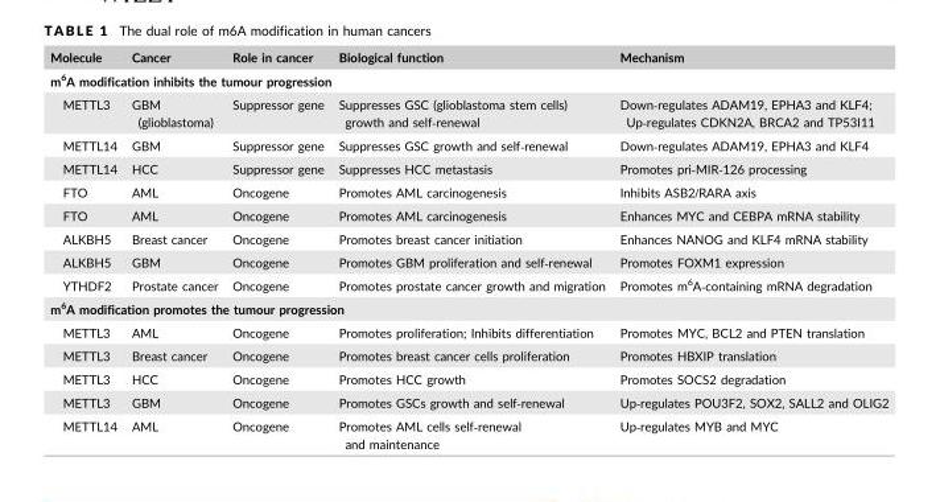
<table><thead><tr><td>Molecule</td><td>Cancer</td><td>Role in cancer</td><td>Biological function</td><td>Mechanism</td></tr></thead><tbody><tr><td colspan="5">m<sup>6</sup>A modification inhibits the tumour progression</td></tr><tr><td>METTL3</td><td>GBM (glioblastoma)</td><td>Suppressor gene</td><td>Suppresses GSC (glioblastoma stem cells) growth and self‐renewal</td><td>Down‐regulates ADAM19, EPHA3 and KLF4; Up‐regulates CDKN2A, BRCA2 and TP53I11</td></tr><tr><td>METTL14</td><td>GBM</td><td>Suppressor gene</td><td>Suppresses GSC growth and self‐renewal</td><td>Down‐regulates ADAM19, EPHA3 and KLF4</td></tr><tr><td>METTL14</td><td>HCC</td><td>Suppressor gene</td><td>Suppresses HCC metastasis</td><td>Promotes pri‐MIR‐126 processing</td></tr><tr><td>FTO</td><td>AML</td><td>Oncogene</td><td>Promotes AML carcinogenesis</td><td>Inhibits ASB2/RARA axis</td></tr><tr><td>FTO</td><td>AML</td><td>Oncogene</td><td>Promotes AML carcinogenesis</td><td>Enhances MYC and CEBPA mRNA stability</td></tr><tr><td>ALKBH5</td><td>Breast cancer</td><td>Oncogene</td><td>Promotes breast cancer initiation</td><td>Enhances NANOG and KLF4 mRNA stability</td></tr><tr><td>ALKBH5</td><td>GBM</td><td>Oncogene</td><td>Promotes GBM proliferation and self‐renewal</td><td>Promotes FOXM1 expression</td></tr><tr><td>YTHDF2</td><td>Prostate cancer</td><td>Oncogene</td><td>Promotes prostate cancer growth and migration</td><td>Promotes m<sup>6</sup>A‐containing mRNA degradation</td></tr><tr><td colspan="5">m<sup>6</sup>A modification promotes the tumour progression</td></tr><tr><td>METTL3</td><td>AML</td><td>Oncogene</td><td>Promotes proliferation; Inhibits differentiation</td><td>Promotes MYC, BCL2 and PTEN translation</td></tr><tr><td>METTL3</td><td>Breast cancer</td><td>Oncogene</td><td>Promotes breast cancer cells proliferation</td><td>Promotes HBXIP translation</td></tr><tr><td>METTL3</td><td>HCC</td><td>Oncogene</td><td>Promotes HCC growth</td><td>Promotes SOCS2 degradation</td></tr><tr><td>METTL3</td><td>GBM</td><td>Oncogene</td><td>Promotes GSCs growth and self‐renewal</td><td>Up‐regulates POU3F2, SOX2, SALL2 and OLIG2</td></tr><tr><td>METTL14</td><td>AML</td><td>Oncogene</td><td>Promotes AML cells self‐renewal and maintenance</td><td>Up‐regulates MYB and MYC</td></tr></tbody></table>